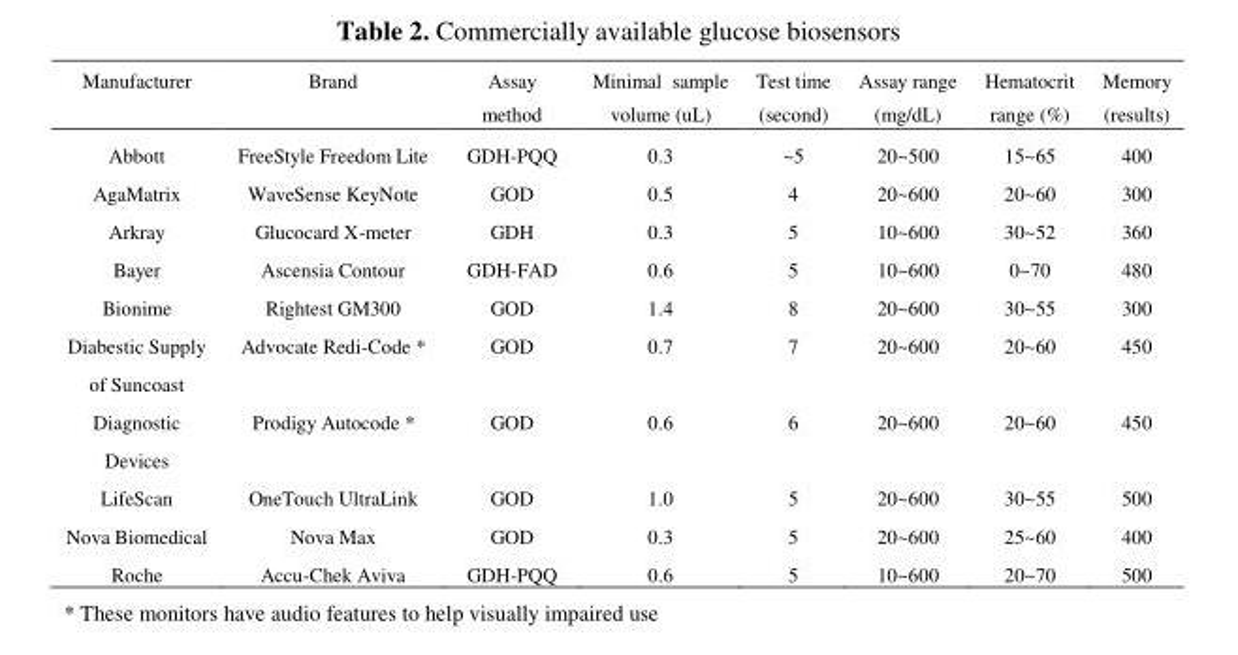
<table><thead><tr><td>Manufacturer</td><td>Brand</td><td>Assay method</td><td>Minimal sample volume (uL)</td><td>Test time (second)</td><td>Assay range (mg/dL)</td><td>Hematocrit range (%)</td><td>Memory (results)</td></tr></thead><tbody><tr><td>Abbott</td><td>FreeStyle Freedom Lite</td><td>GDH-PQQ</td><td>0.3</td><td>~5</td><td>20~500</td><td>15~65</td><td>400</td></tr><tr><td>AgaMatrix</td><td>WaveSense KeyNote</td><td>GOD</td><td>0.5</td><td>4</td><td>20~600</td><td>20~60</td><td>300</td></tr><tr><td>Arkray</td><td>Glucocard X-meter</td><td>GDH</td><td>0.3</td><td>5</td><td>10~600</td><td>30~52</td><td>360</td></tr><tr><td>Bayer</td><td>Ascensia Contour</td><td>GDH-FAD</td><td>0.6</td><td>5</td><td>10~600</td><td>0~70</td><td>480</td></tr><tr><td>Bionime</td><td>Rightest GM300</td><td>GOD</td><td>1.4</td><td>8</td><td>20~600</td><td>30~55</td><td>300</td></tr><tr><td>Diabestic Supply of Suncoast</td><td>Advocate Redi-Code *</td><td>GOD</td><td>0.7</td><td>7</td><td>20~600</td><td>20~60</td><td>450</td></tr><tr><td>Diagnostic Devices</td><td>Prodigy Autocode *</td><td>GOD</td><td>0.6</td><td>6</td><td>20~600</td><td>20~60</td><td>450</td></tr><tr><td>LifeScan</td><td>OneTouch UltraLink</td><td>GOD</td><td>1.0</td><td>5</td><td>20~600</td><td>30~55</td><td>500</td></tr><tr><td>Nova Biomedical</td><td>Nova Max</td><td>GOD</td><td>0.3</td><td>5</td><td>20~600</td><td>25~60</td><td>400</td></tr><tr><td>Roche</td><td>Accu-Chek Aviva</td><td>GDH-PQQ</td><td>0.6</td><td>5</td><td>10~600</td><td>20~70</td><td>500</td></tr></tbody></table>